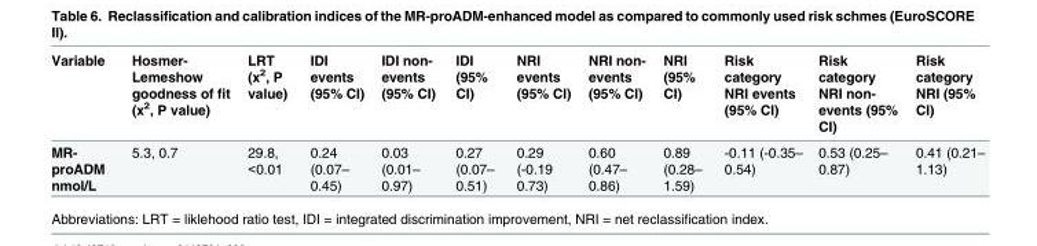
<table><thead><tr><td>Variable</td><td>Hosmer- Lemeshow goodness of fit (x<sup>2</sup>, P value)</td><td>LRT (x<sup>2</sup>, P value)</td><td>IDI events (95% CI)</td><td>IDI non- events (95% CI)</td><td>IDI (95% CI)</td><td>NRI events (95% CI)</td><td>NRI non- events (95% CI)</td><td>NRI (95% CI)</td><td>Risk category NRI events (95% CI)</td><td>Risk category NRI non- events (95% CI)</td><td>Risk category NRI (95% CI)</td></tr></thead><tbody><tr><td>MR- proADM nmol/L</td><td>5.3, 0.7</td><td>29.8, &lt;0.01</td><td>0.24 (0.07– 0.45)</td><td>0.03 (0.01– 0.97)</td><td>0.27 (0.07– 0.51)</td><td>0.29 (-0.19 0.73)</td><td>0.60 (0.47– 0.86)</td><td>0.89 (0.28– 1.59)</td><td>-0.11 (-0.35– 0.54)</td><td>0.53 (0.25– 0.87)</td><td>0.41 (0.21– 1.13)</td></tr></tbody></table>